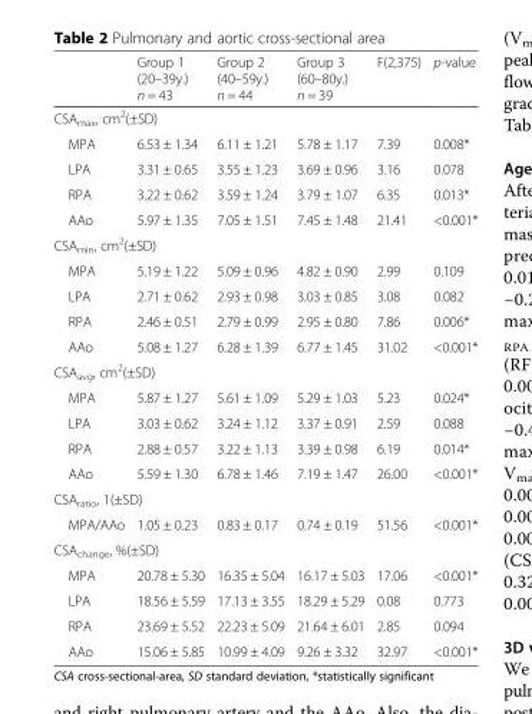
<table><thead><tr><td></td><td>Group 1 (20–39y.) n = 43</td><td>Group 2 (40–59y.) n = 44</td><td>Group 3 (60–80y.) n = 39</td><td>F(2,375)</td><td>p-value</td></tr></thead><tbody><tr><td colspan="6">CSA<sub>max</sub>, cm<sup>2</sup>(±SD)</td></tr><tr><td>MPA</td><td>6.53 ± 1.34</td><td>6.11 ± 1.21</td><td>5.78 ± 1.17</td><td>7.39</td><td>0.008*</td></tr><tr><td>LPA</td><td>3.31 ± 0.65</td><td>3.55 ± 1.23</td><td>3.69 ± 0.96</td><td>3.16</td><td>0.078</td></tr><tr><td>RPA</td><td>3.22 ± 0.62</td><td>3.59 ± 1.24</td><td>3.79 ± 1.07</td><td>6.35</td><td>0.013*</td></tr><tr><td>AAo</td><td>5.97 ± 1.35</td><td>7.05 ± 1.51</td><td>7.45 ± 1.48</td><td>21.41</td><td>&lt;0.001*</td></tr><tr><td colspan="6">CSA<sub>min</sub>, cm<sup>2</sup>(±SD)</td></tr><tr><td>MPA</td><td>5.19 ± 1.22</td><td>5.09 ± 0.96</td><td>4.82 ± 0.90</td><td>2.99</td><td>0.109</td></tr><tr><td>LPA</td><td>2.71 ± 0.62</td><td>2.93 ± 0.98</td><td>3.03 ± 0.85</td><td>3.08</td><td>0.082</td></tr><tr><td>RPA</td><td>2.46 ± 0.51</td><td>2.79 ± 0.99</td><td>2.95 ± 0.80</td><td>7.86</td><td>0.006*</td></tr><tr><td>AAo</td><td>5.08 ± 1.27</td><td>6.28 ± 1.39</td><td>6.77 ± 1.45</td><td>31.02</td><td>&lt;0.001*</td></tr><tr><td colspan="6">CSA<sub>avg</sub>, cm<sup>2</sup>(±SD)</td></tr><tr><td>MPA</td><td>5.87 ± 1.27</td><td>5.61 ± 1.09</td><td>5.29 ± 1.03</td><td>5.23</td><td>0.024*</td></tr><tr><td>LPA</td><td>3.03 ± 0.62</td><td>3.24 ± 1.12</td><td>3.37 ± 0.91</td><td>2.59</td><td>0.088</td></tr><tr><td>RPA</td><td>2.88 ± 0.57</td><td>3.22 ± 1.13</td><td>3.39 ± 0.98</td><td>6.19</td><td>0.014*</td></tr><tr><td>AAo</td><td>5.59 ± 1.30</td><td>6.78 ± 1.46</td><td>7.19 ± 1.47</td><td>26.00</td><td>&lt;0.001*</td></tr><tr><td colspan="6">CSA<sub>ratio</sub>, 1(±SD)</td></tr><tr><td>MPA/AAo</td><td>1.05 ± 0.23</td><td>0.83 ± 0.17</td><td>0.74 ± 0.19</td><td>51.56</td><td>&lt;0.001*</td></tr><tr><td colspan="6">CSA<sub>change</sub>, %(±SD)</td></tr><tr><td>MPA</td><td>20.78 ± 5.30</td><td>16.35 ± 5.04</td><td>16.17 ± 5.03</td><td>17.06</td><td>&lt;0.001*</td></tr><tr><td>LPA</td><td>18.56 ± 5.59</td><td>17.13 ± 3.55</td><td>18.29 ± 5.29</td><td>0.08</td><td>0.773</td></tr><tr><td>RPA</td><td>23.69 ± 5.52</td><td>22.23 ± 5.09</td><td>21.64 ± 6.01</td><td>2.85</td><td>0.094</td></tr><tr><td>AAo</td><td>15.06 ± 5.85</td><td>10.99 ± 4.09</td><td>9.26 ± 3.32</td><td>32.97</td><td>&lt;0.001*</td></tr></tbody></table>